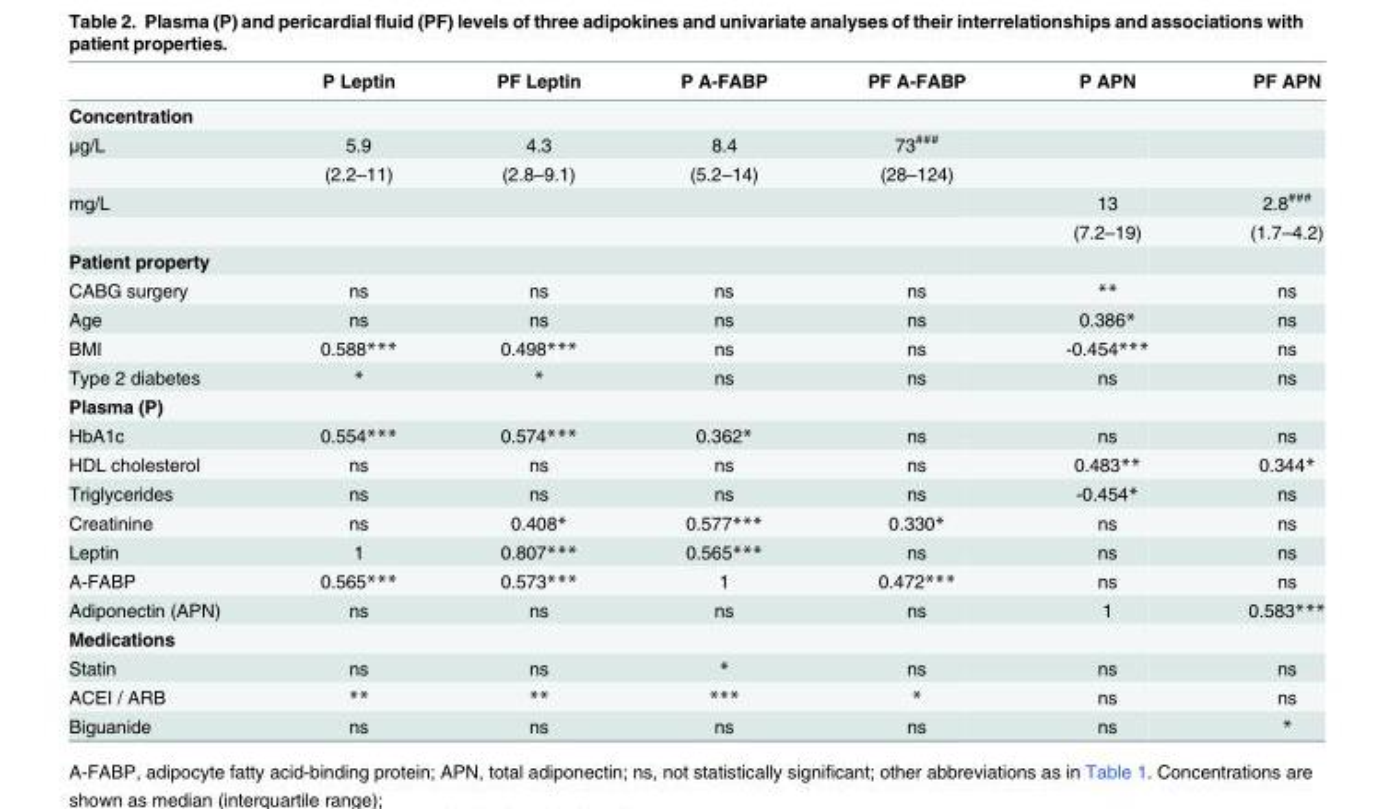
<table><thead><tr><td></td><td>P Leptin</td><td>PF Leptin</td><td>P A-FABP</td><td>PF A-FABP</td><td>P APN</td><td>PF APN</td></tr></thead><tbody><tr><td colspan="7">Concentration</td></tr><tr><td rowspan="2">μg/L</td><td>5.9</td><td>4.3</td><td>8.4</td><td>73<sup>###</sup></td><td></td><td></td></tr><tr><td>(2.2–11)</td><td>(2.8–9.1)</td><td>(5.2–14)</td><td>(28–124)</td><td></td><td></td></tr><tr><td rowspan="2">mg/L</td><td></td><td></td><td></td><td></td><td>13</td><td>2.8<sup>###</sup></td></tr><tr><td></td><td></td><td></td><td></td><td>(7.2–19)</td><td>(1.7–4.2)</td></tr><tr><td colspan="7">Patient property</td></tr><tr><td>CABG surgery</td><td>ns</td><td>ns</td><td>ns</td><td>ns</td><td>**</td><td>ns</td></tr><tr><td>Age</td><td>ns</td><td>ns</td><td>ns</td><td>ns</td><td>0.386*</td><td>ns</td></tr><tr><td>BMI</td><td>0.588***</td><td>0.498***</td><td>ns</td><td>ns</td><td>-0.454***</td><td>ns</td></tr><tr><td>Type 2 diabetes</td><td>*</td><td>*</td><td>ns</td><td>ns</td><td>ns</td><td>ns</td></tr><tr><td colspan="7">Plasma (P)</td></tr><tr><td>HbA1c</td><td>0.554***</td><td>0.574***</td><td>0.362*</td><td>ns</td><td>ns</td><td>ns</td></tr><tr><td>HDL cholesterol</td><td>ns</td><td>ns</td><td>ns</td><td>ns</td><td>0.483**</td><td>0.344*</td></tr><tr><td>Triglycerides</td><td>ns</td><td>ns</td><td>ns</td><td>ns</td><td>-0.454*</td><td>ns</td></tr><tr><td>Creatinine</td><td>ns</td><td>0.408*</td><td>0.577***</td><td>0.330*</td><td>ns</td><td>ns</td></tr><tr><td>Leptin</td><td>1</td><td>0.807***</td><td>0.565***</td><td>ns</td><td>ns</td><td>ns</td></tr><tr><td>A-FABP</td><td>0.565***</td><td>0.573***</td><td>1</td><td>0.472***</td><td>ns</td><td>ns</td></tr><tr><td>Adiponectin (APN)</td><td>ns</td><td>ns</td><td>ns</td><td>ns</td><td>1</td><td>0.583***</td></tr><tr><td colspan="7">Medications</td></tr><tr><td>Statin</td><td>ns</td><td>ns</td><td>*</td><td>ns</td><td>ns</td><td>ns</td></tr><tr><td>ACEI / ARB</td><td>**</td><td>**</td><td>***</td><td>*</td><td>ns</td><td>ns</td></tr><tr><td>Biguanide</td><td>ns</td><td>ns</td><td>ns</td><td>ns</td><td>ns</td><td>*</td></tr></tbody></table>